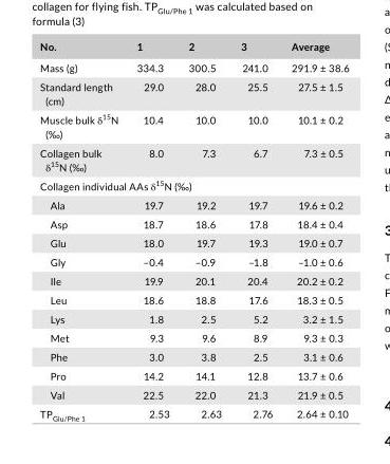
<table><thead><tr><td>No.</td><td>1</td><td>2</td><td>3</td><td>Average</td></tr></thead><tbody><tr><td>Mass (g)</td><td>334.3</td><td>300.5</td><td>241.0</td><td>291.9 ± 38.6</td></tr><tr><td>Standard length (cm)</td><td>29.0</td><td>28.0</td><td>25.5</td><td>27.5 ± 1.5</td></tr><tr><td>Muscle bulk δ<sup>15</sup>N (‰)</td><td>10.4</td><td>10.0</td><td>10.0</td><td>10.1 ± 0.2</td></tr><tr><td>Collagen bulk δ<sup>15</sup>N (‰)</td><td>8.0</td><td>7.3</td><td>6.7</td><td>7.3 ± 0.5</td></tr><tr><td colspan="5">Collagen individual AAs δ<sup>15</sup>N (‰)</td></tr><tr><td>Ala</td><td>19.7</td><td>19.2</td><td>19.7</td><td>19.6 ± 0.2</td></tr><tr><td>Asp</td><td>18.7</td><td>18.6</td><td>17.8</td><td>18.4 ± 0.4</td></tr><tr><td>Glu</td><td>18.0</td><td>19.7</td><td>19.3</td><td>19.0 ± 0.7</td></tr><tr><td>Gly</td><td>–0.4</td><td>–0.9</td><td>–1.8</td><td>–1.0 ± 0.6</td></tr><tr><td>Ile</td><td>19.9</td><td>20.1</td><td>20.4</td><td>20.2 ± 0.2</td></tr><tr><td>Leu</td><td>18.6</td><td>18.8</td><td>17.6</td><td>18.3 ± 0.5</td></tr><tr><td>Lys</td><td>1.8</td><td>2.5</td><td>5.2</td><td>3.2 ± 1.5</td></tr><tr><td>Met</td><td>9.3</td><td>9.6</td><td>8.9</td><td>9.3 ± 0.3</td></tr><tr><td>Phe</td><td>3.0</td><td>3.8</td><td>2.5</td><td>3.1 ± 0.6</td></tr><tr><td>Pro</td><td>14.2</td><td>14.1</td><td>12.8</td><td>13.7 ± 0.6</td></tr><tr><td>Val</td><td>22.5</td><td>22.0</td><td>21.3</td><td>21.9 ± 0.5</td></tr><tr><td>TP<sub>Glu/Phe 1</sub></td><td>2.53</td><td>2.63</td><td>2.76</td><td>2.64 ± 0.10</td></tr></tbody></table>